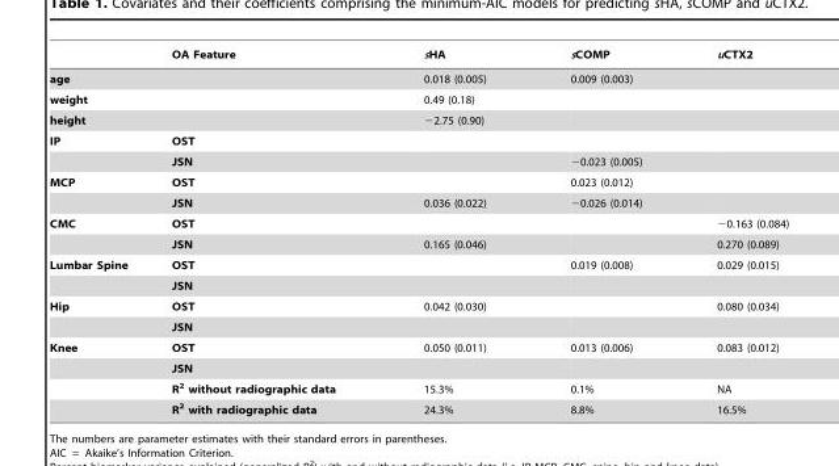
<table><thead><tr><td></td><td>OA Feature</td><td>sHA</td><td>sCOMP</td><td>uCTX2</td></tr></thead><tbody><tr><td>age</td><td></td><td>0.018 (0.005)</td><td>0.009 (0.003)</td><td></td></tr><tr><td>weight</td><td></td><td>0.49 (0.18)</td><td></td><td></td></tr><tr><td>height</td><td></td><td>−2.75 (0.90)</td><td></td><td></td></tr><tr><td rowspan="2">IP</td><td>OST</td><td></td><td></td><td></td></tr><tr><td>JSN</td><td></td><td>−0.023 (0.005)</td><td></td></tr><tr><td rowspan="2">MCP</td><td>OST</td><td></td><td>0.023 (0.012)</td><td></td></tr><tr><td>JSN</td><td>0.036 (0.022)</td><td>−0.026 (0.014)</td><td></td></tr><tr><td rowspan="2">CMC</td><td>OST</td><td></td><td></td><td>−0.163 (0.084)</td></tr><tr><td>JSN</td><td>0.165 (0.046)</td><td></td><td>0.270 (0.089)</td></tr><tr><td rowspan="2">Lumbar Spine</td><td>OST</td><td></td><td>0.019 (0.008)</td><td>0.029 (0.015)</td></tr><tr><td>JSN</td><td></td><td></td><td></td></tr><tr><td rowspan="2">Hip</td><td>OST</td><td>0.042 (0.030)</td><td></td><td>0.080 (0.034)</td></tr><tr><td>JSN</td><td></td><td></td><td></td></tr><tr><td rowspan="4">Knee</td><td>OST</td><td>0.050 (0.011)</td><td>0.013 (0.006)</td><td>0.083 (0.012)</td></tr><tr><td>JSN</td><td></td><td></td><td></td></tr><tr><td>R<sup>2</sup> without radiographic data</td><td>15.3%</td><td>0.1%</td><td>NA</td></tr><tr><td>R<sup>2</sup> with radiographic data</td><td>24.3%</td><td>8.8%</td><td>16.5%</td></tr></tbody></table>